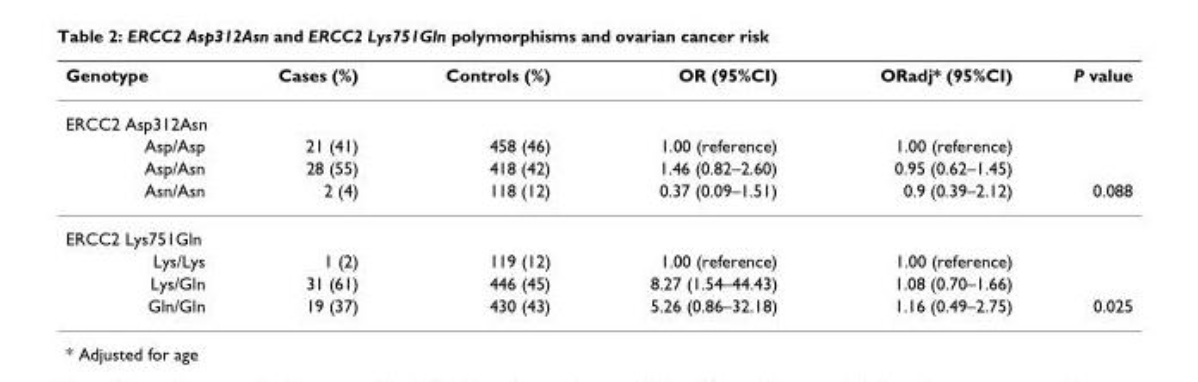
<table><thead><tr><td>Genotype</td><td>Cases (%)</td><td>Controls (%)</td><td>OR (95%CI)</td><td>ORadj* (95%CI)</td><td>P value</td></tr></thead><tbody><tr><td colspan="6">ERCC2 Asp312Asn</td></tr><tr><td>Asp/Asp</td><td>21 (41)</td><td>458 (46)</td><td>1.00 (reference)</td><td>1.00 (reference)</td><td></td></tr><tr><td>Asp/Asn</td><td>28 (55)</td><td>418 (42)</td><td>1.46 (0.82–2.60)</td><td>0.95 (0.62–1.45)</td><td></td></tr><tr><td>Asn/Asn</td><td>2 (4)</td><td>118 (12)</td><td>0.37 (0.09–1.51)</td><td>0.9 (0.39–2.12)</td><td>0.088</td></tr><tr><td colspan="6">ERCC2 Lys751Gln</td></tr><tr><td>Lys/Lys</td><td>1 (2)</td><td>119 (12)</td><td>1.00 (reference)</td><td>1.00 (reference)</td><td></td></tr><tr><td>Lys/Gln</td><td>31 (61)</td><td>446 (45)</td><td>8.27 (1.54–44.43)</td><td>1.08 (0.70–1.66)</td><td></td></tr><tr><td>Gln/Gln</td><td>19 (37)</td><td>430 (43)</td><td>5.26 (0.86–32.18)</td><td>1.16 (0.49–2.75)</td><td>0.025</td></tr></tbody></table>